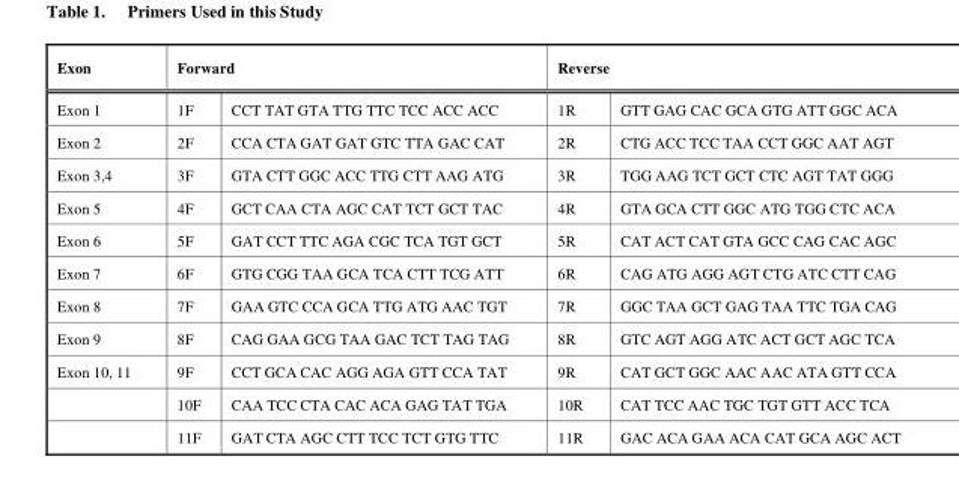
<table><thead><tr><td rowspan="2">Exon Exon 1</td><td colspan="2">Forward</td><td colspan="2">Reverse</td></tr><tr><td>1F</td><td>CCT TAT GTA TTG TTC TCC ACC ACC</td><td>1R</td><td>GTT GAG CAC GCA GTG ATT GGC ACA</td></tr></thead><tbody><tr><td>Exon 2</td><td>2F</td><td>CCA CTA GAT GAT GTC TTA GAC CAT</td><td>2R</td><td>CTG ACC TCC TAA CCT GGC AAT AGT</td></tr><tr><td>Exon 3,4</td><td>3F</td><td>GTA CTT GGC ACC TTG CTT AAG ATG</td><td>3R</td><td>TGG AAG TCT GCT CTC AGT TAT GGG</td></tr><tr><td>Exon 5</td><td>4F</td><td>GCT CAA CTA AGC CAT TCT GCT TAC</td><td>4R</td><td>GTA GCA CTT GGC ATG TGG CTC ACA</td></tr><tr><td>Exon 6</td><td>5F</td><td>GAT CCT TTC AGA CGC TCA TGT GCT</td><td>5R</td><td>CAT ACT CAT GTA GCC CAG CAC AGC</td></tr><tr><td>Exon 7</td><td>6F</td><td>GTG CGG TAA GCA TCA CTT TCG ATT</td><td>6R</td><td>CAG ATG AGG AGT CTG ATC CTT CAG</td></tr><tr><td>Exon 8</td><td>7F</td><td>GAA GTC CCA GCA TTG ATG AAC TGT</td><td>7R</td><td>GGC TAA GCT GAG TAA TTC TGA CAG</td></tr><tr><td>Exon 9</td><td>8F</td><td>CAG GAA GCG TAA GAC TCT TAG TAG</td><td>8R</td><td>GTC AGT AGG ATC ACT GCT AGC TCA</td></tr><tr><td rowspan="3">Exon 10, 11</td><td>9F</td><td>CCT GCA CAC AGG AGA GTT CCA TAT</td><td>9R</td><td>CAT GCT GGC AAC AAC ATA GTT CCA</td></tr><tr><td>10F</td><td>CAA TCC CTA CAC ACA GAG TAT TGA</td><td>10R</td><td>CAT TCC AAC TGC TGT GTT ACC TCA</td></tr><tr><td>11F</td><td>GAT CTA AGC CTT TCC TCT GTG TTC</td><td>11R</td><td>GAC ACA GAA ACA CAT GCA AGC ACT</td></tr></tbody></table>